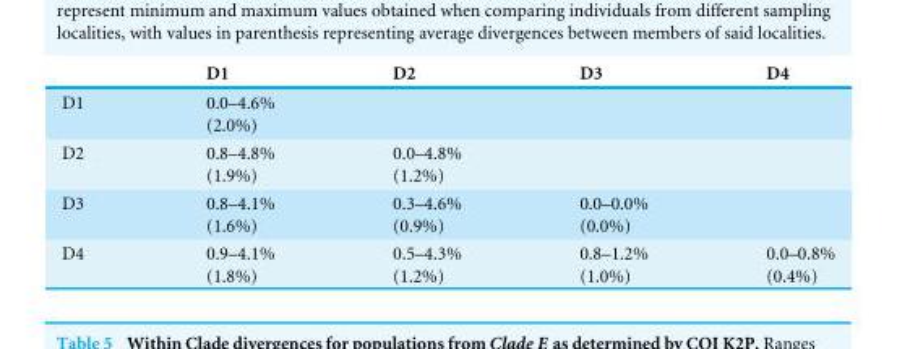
<table><thead><tr><td></td><td>D1</td><td>D2</td><td>D3</td><td>D4</td></tr></thead><tbody><tr><td>D1</td><td>0.0–4.6% (2.0%)</td><td></td><td></td><td></td></tr><tr><td>D2</td><td>0.8–4.8% (1.9%)</td><td>0.0–4.8% (1.2%)</td><td></td><td></td></tr><tr><td>D3</td><td>0.8–4.1% (1.6%)</td><td>0.3–4.6% (0.9%)</td><td>0.0–0.0% (0.0%)</td><td></td></tr><tr><td>D4</td><td>0.9–4.1% (1.8%)</td><td>0.5–4.3% (1.2%)</td><td>0.8–1.2% (1.0%)</td><td>0.0–0.8% (0.4%)</td></tr></tbody></table>